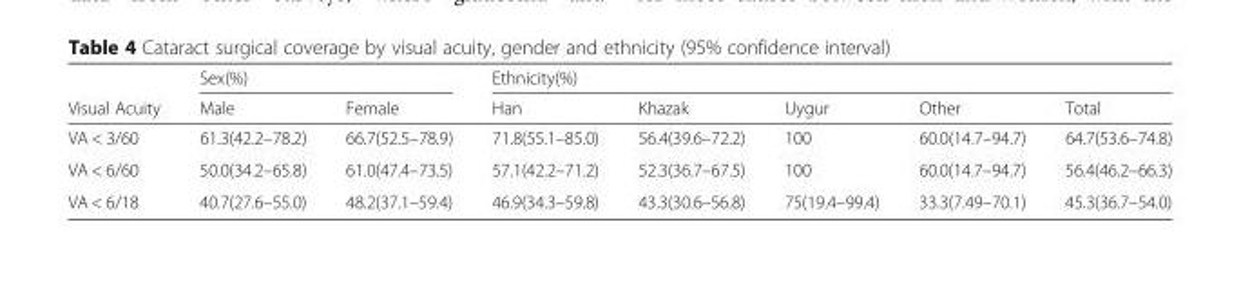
<table><thead><tr><td rowspan="2">Visual Acuity</td><td colspan="2">Sex(%)</td><td colspan="5">Ethnicity(%)</td></tr><tr><td>Male</td><td>Female</td><td>Han</td><td>Khazak</td><td>Uygur</td><td>Other</td><td>Total</td></tr></thead><tbody><tr><td>VA &lt; 3/60</td><td>61.3(42.2–78.2)</td><td>66.7(52.5–78.9)</td><td>71.8(55.1–85.0)</td><td>56.4(39.6–72.2)</td><td>100</td><td>60.0(14.7–94.7)</td><td>64.7(53.6–74.8)</td></tr><tr><td>VA &lt; 6/60</td><td>50.0(34.2–65.8)</td><td>61.0(47.4–73.5)</td><td>57.1(42.2–71.2)</td><td>52.3(36.7–67.5)</td><td>100</td><td>60.0(14.7–94.7)</td><td>56.4(46.2–66.3)</td></tr><tr><td>VA &lt; 6/18</td><td>40.7(27.6–55.0)</td><td>48.2(37.1–59.4)</td><td>46.9(34.3–59.8)</td><td>43.3(30.6–56.8)</td><td>75(19.4–99.4)</td><td>33.3(7.49–70.1)</td><td>45.3(36.7–54.0)</td></tr></tbody></table>